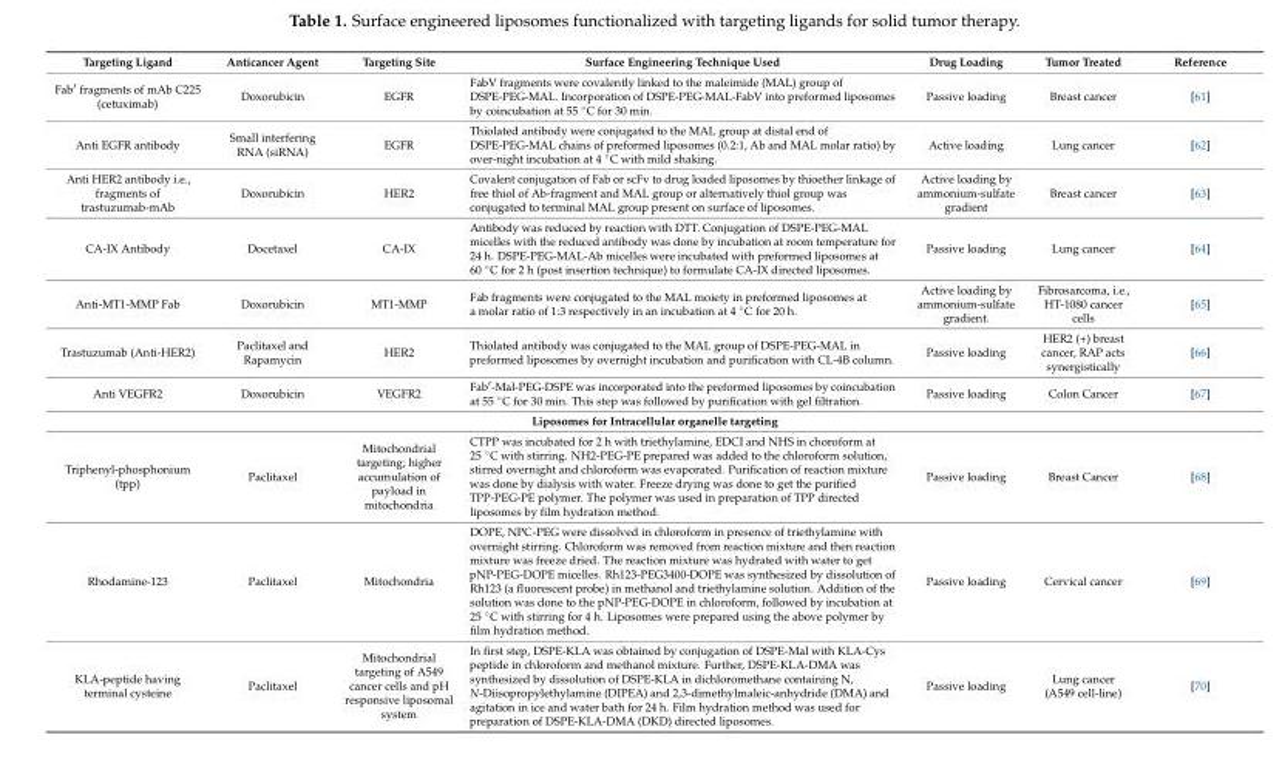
<table><thead><tr><td>Targeting Ligand</td><td>Anticancer Agent</td><td>Targeting Site</td><td>Surface Engineering Technique Used</td><td>Drug Loading</td><td>Tumor Treated</td><td>Reference</td></tr></thead><tbody><tr><td>Fab′ fragments of mAb C225 (cetuximab)</td><td>Doxorubicin</td><td>EGFR</td><td>FabV fragments were covalently linked to the maleimide (MAL) group of DSPE-PEG-MAL. Incorporation of DSPE-PEG-MAL-FabV into preformed liposomes by coincubation at 55 ◦C for 30 min.</td><td>Passive loading</td><td>Breast cancer</td><td>[61]</td></tr><tr><td>Anti EGFR antibody</td><td>Small interfering RNA (siRNA)</td><td>EGFR</td><td>Thiolated antibody were conjugated to the MAL group at distal end of DSPE-PEG-MAL chains of preformed liposomes (0.2:1, Ab and MAL molar ratio) by over-night incubation at 4 ◦C with mild shaking.</td><td>Active loading</td><td>Lung cancer</td><td>[62]</td></tr><tr><td>Anti HER2 antibody i.e., fragments of trastuzumab-mAb</td><td>Doxorubicin</td><td>HER2</td><td>Covalent conjugation of Fab or scFv to drug loaded liposomes by thioether linkage of free thiol of Ab-fragment and MAL group or alternatively thiol group was conjugated to terminal MAL group present on surface of liposomes.</td><td>Active loading by ammonium-sulfate gradient</td><td>Breast cancer</td><td>[63]</td></tr><tr><td>CA-IX Antibody</td><td>Docetaxel</td><td>CA-IX</td><td>Antibody was reduced by reaction with DTT. Conjugation of DSPE-PEG-MAL micelles with the reduced antibody was done by incubation at room temperature for 24 h. DSPE-PEG-MAL-Ab micelles were incubated with preformed liposomes at 60 ◦C for 2 h (post insertion technique) to formulate CA-IX directed liposomes.</td><td>Passive loading</td><td>Lung cancer</td><td>[64]</td></tr><tr><td>Anti-MT1-MMP Fab</td><td>Doxorubicin</td><td>MT1-MMP</td><td>Fab fragments were conjugated to the MAL moiety in preformed liposomes at a molar ratio of 1:3 respectively in an incubation at 4 ◦C for 20 h.</td><td>Active loading by ammonium-sulfate gradient.</td><td>Fibrosarcoma, i.e., HT-1080 cancer cells</td><td>[65]</td></tr><tr><td>Trastuzumab (Anti-HER2)</td><td>Paclitaxel and Rapamycin</td><td>HER2</td><td>Thiolated antibody was conjugated to the MAL group of DSPE-PEG-MAL in preformed liposomes by overnight incubation and purification with CL-4B column.</td><td>Passive loading</td><td>HER2 (+) breast cancer, RAP acts synergistically</td><td>[66]</td></tr><tr><td>Anti VEGFR2</td><td>Doxorubicin</td><td>VEGFR2</td><td>Fab′-Mal-PEG-DSPE was incorporated into the preformed liposomes by coincubation at 55 ◦C for 30 min. This step was followed by purification with gel filtration.</td><td>Passive loading</td><td>Colon Cancer</td><td>[67]</td></tr><tr><td colspan="7">Liposomes for Intracellular organelle targeting</td></tr><tr><td>Triphenyl-phosphonium (tpp)</td><td>Paclitaxel</td><td>Mitochondrial targeting; higher accumulation of payload in mitochondria</td><td>CTPP was incubated for 2 h with triethylamine, EDCI and NHS in choroform at 25 ◦C with stirring. NH2-PEG-PE prepared was added to the chloroform solution, stirred overnight and chloroform was evaporated. Purification of reaction mixture was done by dialysis with water. Freeze drying was done to get the purified TPP-PEG-PE polymer. The polymer was used in preparation of TPP directed liposomes by film hydration method.</td><td>Passive loading</td><td>Breast Cancer</td><td>[68]</td></tr><tr><td>Rhodamine-123</td><td>Paclitaxel</td><td>Mitochondria</td><td>DOPE, NPC-PEG were dissolved in chloroform in presence of triethylamine with overnight stirring. Chloroform was removed from reaction mixture and then reaction mixture was freeze dried. The reaction mixture was hydrated with water to get pNP-PEG-DOPE micelles. Rh123-PEG3400-DOPE was synthesized by dissolution of Rh123 (a fluorescent probe) in methanol and triethylamine solution. Addition of the solution was done to the pNP-PEG-DOPE in chloroform, followed by incubation at 25 ◦C with stirring for 4 h. Liposomes were prepared using the above polymer by film hydration method.</td><td>Passive loading</td><td>Cervical cancer</td><td>[69]</td></tr><tr><td>KLA-peptide having terminal cysteine</td><td>Paclitaxel</td><td>Mitochondrial targeting of A549 cancer cells and pH responsive liposomal system</td><td>In first step, DSPE-KLA was obtained by conjugation of DSPE-Mal with KLA-Cys peptide in chloroform and methanol mixture. Further, DSPE-KLA-DMA was synthesized by dissolution of DSPE-KLA in dichloromethane containing N, N-Diisopropylethylamine (DIPEA) and 2,3-dimethylmaleic-anhydride (DMA) and agitation in ice and water bath for 24 h. Film hydration method was used for preparation of DSPE-KLA-DMA (DKD) directed liposomes.</td><td>Passive loading</td><td>Lung cancer (A549 cell-line)</td><td>[70]</td></tr></tbody></table>